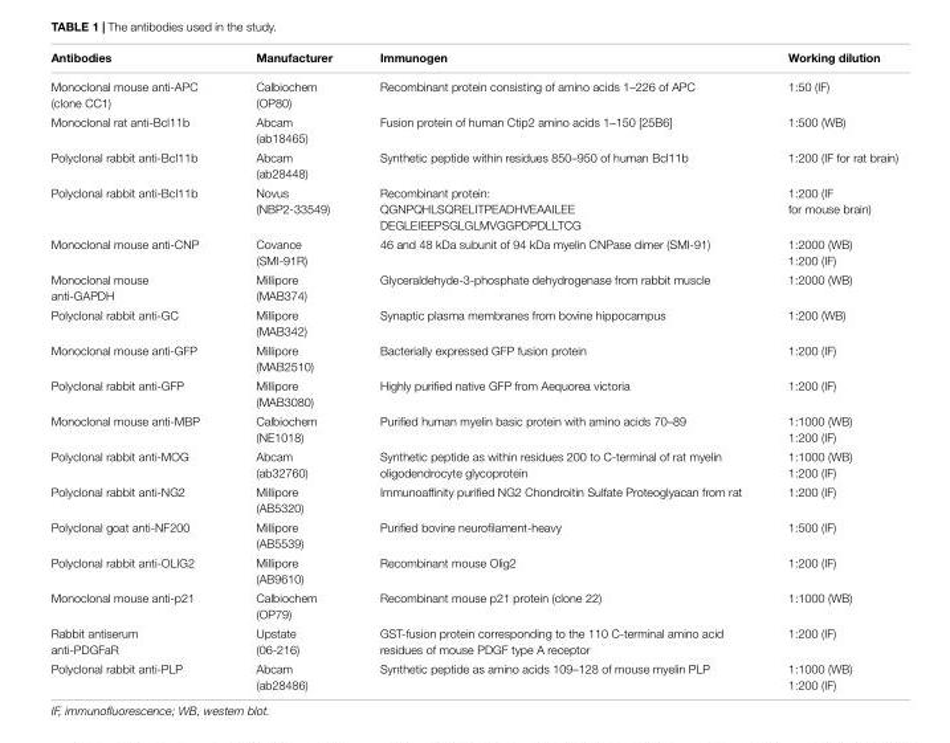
<table><thead><tr><td>Antibodies</td><td>Manufacturer</td><td>Immunogen</td><td>Working dilution</td></tr></thead><tbody><tr><td>Monoclonal mouse anti-APC (clone CC1)</td><td>Calbiochem (OP80)</td><td>Recombinant protein consisting of amino acids 1–226 of APC</td><td>1:50 (IF)</td></tr><tr><td>Monoclonal rat anti-Bcl11b</td><td>Abcam (ab18465)</td><td>Fusion protein of human Ctip2 amino acids 1–150 [25B6]</td><td>1:500 (WB)</td></tr><tr><td>Polyclonal rabbit anti-Bcl11b</td><td>Abcam (ab28448)</td><td>Synthetic peptide within residues 850–950 of human Bcl11b</td><td>1:200 (IF for rat brain)</td></tr><tr><td>Polyclonal rabbit anti-Bcl11b</td><td>Novus (NBP2-33549)</td><td>Recombinant protein: QGNPQHLSQRELITPEADHVEAAILEE DEGLEIEEPSGLGLMVGGPDPDLLTCG</td><td>1:200 (IF for mouse brain)</td></tr><tr><td>Monoclonal mouse anti-CNP</td><td>Covance (SMI-91R)</td><td>46 and 48 kDa subunit of 94 kDa myelin CNPase dimer (SMI-91)</td><td>1:2000 (WB) 1:200 (IF)</td></tr><tr><td>Monoclonal mouse anti-GAPDH</td><td>Millipore (MAB374)</td><td>Glyceraldehyde-3-phosphate dehydrogenase from rabbit muscle</td><td>1:2000 (WB)</td></tr><tr><td>Polyclonal rabbit anti-GC</td><td>Millipore (MAB342)</td><td>Synaptic plasma membranes from bovine hippocampus</td><td>1:200 (WB)</td></tr><tr><td>Monoclonal mouse anti-GFP</td><td>Millipore (MAB2510)</td><td>Bacterially expressed GFP fusion protein</td><td>1:200 (IF)</td></tr><tr><td>Polyclonal rabbit anti-GFP</td><td>Millipore (MAB3080)</td><td>Highly purified native GFP from Aequorea victoria</td><td>1:200 (IF)</td></tr><tr><td>Monoclonal mouse anti-MBP</td><td>Calbiochem (NE1018)</td><td>Purified human myelin basic protein with amino acids 70–89</td><td>1:1000 (WB) 1:200 (IF)</td></tr><tr><td>Polyclonal rabbit anti-MOG</td><td>Abcam (ab32760)</td><td>Synthetic peptide as within residues 200 to C-terminal of rat myelin oligodendrocyte glycoprotein</td><td>1:1000 (WB) 1:200 (IF)</td></tr><tr><td>Polyclonal rabbit anti-NG2</td><td>Millipore (AB5320)</td><td>Immunoaffinity purified NG2 Chondroitin Sulfate Proteoglyacan from rat</td><td>1:200 (IF)</td></tr><tr><td>Polyclonal goat anti-NF200</td><td>Millipore (AB5539)</td><td>Purified bovine neurofilament-heavy</td><td>1:500 (IF)</td></tr><tr><td>Polyclonal rabbit anti-OLIG2</td><td>Millipore (AB9610)</td><td>Recombinant mouse Olig2</td><td>1:200 (IF)</td></tr><tr><td>Monoclonal mouse anti-p21</td><td>Calbiochem (OP79)</td><td>Recombinant mouse p21 protein (clone 22)</td><td>1:1000 (WB)</td></tr><tr><td>Rabbit antiserum anti-PDGFaR</td><td>Upstate (06-216)</td><td>GST-fusion protein corresponding to the 110 C-terminal amino acid residues of mouse PDGF type A receptor</td><td>1:200 (IF)</td></tr><tr><td>Polyclonal rabbit anti-PLP</td><td>Abcam (ab28486)</td><td>Synthetic peptide as amino acids 109–128 of mouse myelin PLP</td><td>1:1000 (WB) 1:200 (IF)</td></tr></tbody></table>